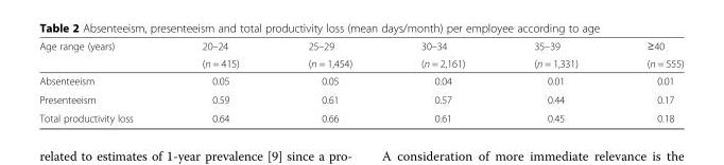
<table><thead><tr><td rowspan="2">Age range (years)</td><td rowspan="2">20–24 (n = 415)</td><td rowspan="2">25–29 (n = 1,454)</td><td rowspan="2">30–34 (n = 2,161)</td><td rowspan="2">35–39 (n = 1,331)</td><td rowspan="2">≥40 (n = 555)</td></tr><tr></tr></thead><tbody><tr><td>Absenteeism</td><td>0.05</td><td>0.05</td><td>0.04</td><td>0.01</td><td>0.01</td></tr><tr><td>Presenteeism</td><td>0.59</td><td>0.61</td><td>0.57</td><td>0.44</td><td>0.17</td></tr><tr><td>Total productivity loss</td><td>0.64</td><td>0.66</td><td>0.61</td><td>0.45</td><td>0.18</td></tr></tbody></table>